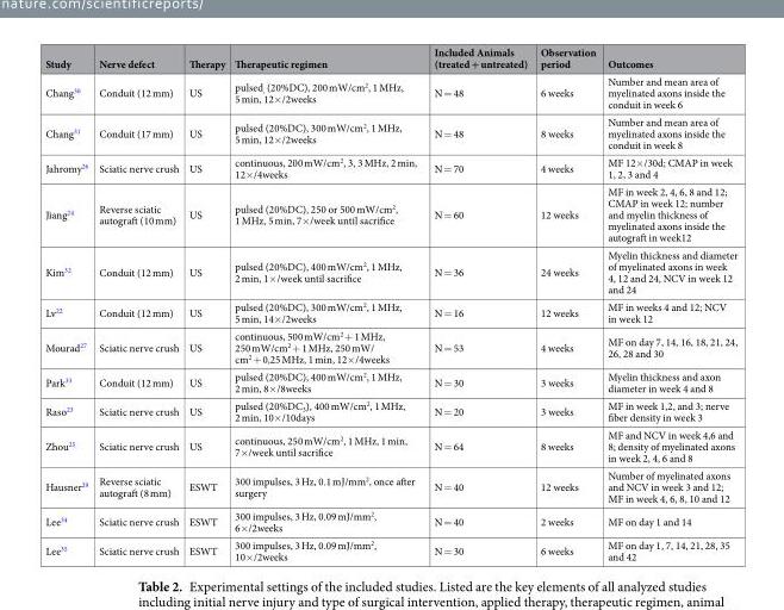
<table><thead><tr><td>Study</td><td>Nerve defect</td><td>Therapy</td><td>Therapeutic regimen</td><td>Included Animals (treated + untreated)</td><td>Observation period</td><td>Outcomes</td></tr></thead><tbody><tr><td>Chang<sup>30</sup></td><td>Conduit (12 mm)</td><td>US</td><td>pulsed<sub>,</sub> (20%DC), 200 mW/cm<sup>2</sup>, 1 MHz, 5 min, 12×/2weeks</td><td>N = 48</td><td>6 weeks</td><td>Number and mean area of myelinated axons inside the conduit in week 6</td></tr><tr><td>Chang<sup>31</sup></td><td>Conduit (17 mm)</td><td>US</td><td>pulsed (20%DC), 300 mW/cm<sup>2</sup>, 1 MHz, 5 min, 12×/2weeks</td><td>N = 48</td><td>8 weeks</td><td>Number and mean area of myelinated axons inside the conduit in week 8</td></tr><tr><td>Jahromy<sup>26</sup></td><td>Sciatic nerve crush</td><td>US</td><td>continuous, 200 mW/cm<sup>2</sup>, 3, 3 MHz, 2 min, 12×/4weeks</td><td>N = 70</td><td>4 weeks</td><td>MF 12×/30d; CMAP in week 1, 2, 3 and 4</td></tr><tr><td>Jiang<sup>24</sup></td><td>Reverse sciatic autograft (10 mm)</td><td>US</td><td>pulsed (20%DC), 250 or 500 mW/cm<sup>2</sup>, 1 MHz, 5 min, 7×/week until sacrifice</td><td>N = 60</td><td>12 weeks</td><td>MF in week 2, 4, 6, 8 and 12; CMAP in week 12; number and myelin thickness of myelinated axons inside the autograft in week12</td></tr><tr><td>Kim<sup>32</sup></td><td>Conduit (12 mm)</td><td>US</td><td>pulsed (20%DC), 400 mW/cm<sup>2</sup>, 1 MHz, 2 min, 1×/week until sacrifice</td><td>N = 36</td><td>24 weeks</td><td>Myelin thickness and diameter of myelinated axons in week 4, 12 and 24, NCV in week 12 and 24</td></tr><tr><td>Lv<sup>22</sup></td><td>Conduit (12 mm)</td><td>US</td><td>pulsed (20%DC), 300 mW/cm<sup>2</sup>, 1 MHz, 5 min, 14×/2weeks</td><td>N = 16</td><td>12 weeks</td><td>MF in weeks 4 and 12; NCV in week 12</td></tr><tr><td>Mourad<sup>27</sup></td><td>Sciatic nerve crush</td><td>US</td><td>continuous, 500 mW/cm<sup>2</sup> + 1 MHz, 250 mW/cm<sup>2</sup> + 1 MHz, 250 mW/ cm<sup>2</sup> + 0,25 MHz, 1 min, 12×/4weeks</td><td>N = 53</td><td>4 weeks</td><td>MF on day 7, 14, 16, 18, 21, 24, 26, 28 and 30</td></tr><tr><td>Park<sup>33</sup></td><td>Conduit (12 mm)</td><td>US</td><td>pulsed (20%DC), 400 mW/cm<sup>2</sup>, 1 MHz, 2 min, 8×/8weeks</td><td>N = 30</td><td>3 weeks</td><td>Myelin thickness and axon diameter in week 4 and 8</td></tr><tr><td>Raso<sup>23</sup></td><td>Sciatic nerve crush</td><td>US</td><td>pulsed (20%DC<sub>3</sub>), 400 mW/cm<sup>2</sup>, 1 MHz, 2 min, 10×/10days</td><td>N = 20</td><td>3 weeks</td><td>MF in week 1,2, and 3; nerve fiber density in week 3</td></tr><tr><td>Zhou<sup>25</sup></td><td>Sciatic nerve crush</td><td>US</td><td>continuous, 250 mW/cm<sup>2</sup>, 1 MHz, 1 min, 7×/week until sacrifice</td><td>N = 64</td><td>8 weeks</td><td>MF and NCV in week 4,6 and 8; density of myelinated axons in week 2, 4, 6 and 8</td></tr><tr><td>Hausner<sup>29</sup></td><td>Reverse sciatic autograft (8 mm)</td><td>ESWT</td><td>300 impulses, 3 Hz, 0.1 mJ/mm<sup>2</sup>, once after surgery</td><td>N = 40</td><td>12 weeks</td><td>Number of myelinated axons and NCV in week 3 and 12; MF in week 4, 6, 8, 10 and 12</td></tr><tr><td>Lee<sup>34</sup></td><td>Sciatic nerve crush</td><td>ESWT</td><td>300 impulses, 3 Hz, 0.09 mJ/mm<sup>2</sup>, 6×/2weeks</td><td>N = 40</td><td>2 weeks</td><td>MF on day 1 and 14</td></tr><tr><td>Lee<sup>35</sup></td><td>Sciatic nerve crush</td><td>ESWT</td><td>300 impulses, 3 Hz, 0.09 mJ/mm<sup>2</sup>, 10×/2weeks</td><td>N = 30</td><td>6 weeks</td><td>MF on day 1, 7, 14, 21, 28, 35 and 42</td></tr></tbody></table>